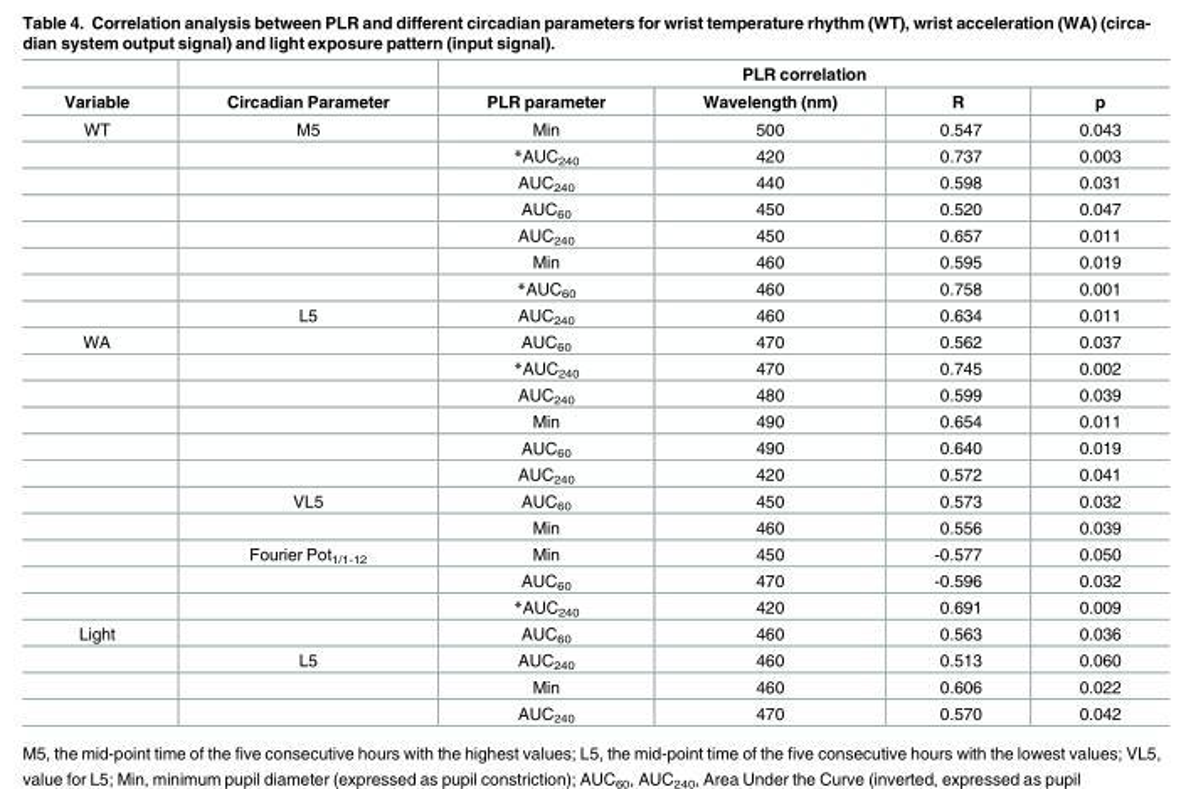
<table><thead><tr><td rowspan="2">Variable</td><td rowspan="2">Circadian Parameter</td><td colspan="4">PLR correlation</td></tr><tr><td>PLR parameter</td><td>Wavelength (nm)</td><td>R</td><td>p</td></tr></thead><tbody><tr><td rowspan="8">WT</td><td>M5</td><td>Min</td><td>500</td><td>0.547</td><td>0.043</td></tr><tr><td></td><td>*AUC<sub>240</sub></td><td>420</td><td>0.737</td><td>0.003</td></tr><tr><td></td><td>AUC<sub>240</sub></td><td>440</td><td>0.598</td><td>0.031</td></tr><tr><td></td><td>AUC<sub>60</sub></td><td>450</td><td>0.520</td><td>0.047</td></tr><tr><td></td><td>AUC<sub>240</sub></td><td>450</td><td>0.657</td><td>0.011</td></tr><tr><td></td><td>Min</td><td>460</td><td>0.595</td><td>0.019</td></tr><tr><td></td><td>*AUC<sub>60</sub></td><td>460</td><td>0.758</td><td>0.001</td></tr><tr><td>L5</td><td>AUC<sub>240</sub></td><td>460</td><td>0.634</td><td>0.011</td></tr><tr><td rowspan="11">WA</td><td></td><td>AUC<sub>60</sub></td><td>470</td><td>0.562</td><td>0.037</td></tr><tr><td></td><td>*AUC<sub>240</sub></td><td>470</td><td>0.745</td><td>0.002</td></tr><tr><td></td><td>AUC<sub>240</sub></td><td>480</td><td>0.599</td><td>0.039</td></tr><tr><td></td><td>Min</td><td>490</td><td>0.654</td><td>0.011</td></tr><tr><td></td><td>AUC<sub>60</sub></td><td>490</td><td>0.640</td><td>0.019</td></tr><tr><td></td><td>AUC<sub>240</sub></td><td>420</td><td>0.572</td><td>0.041</td></tr><tr><td>VL5</td><td>AUC<sub>60</sub></td><td>450</td><td>0.573</td><td>0.032</td></tr><tr><td></td><td>Min</td><td>460</td><td>0.556</td><td>0.039</td></tr><tr><td>Fourier Pot<sub>1/1-12</sub></td><td>Min</td><td>450</td><td>-0.577</td><td>0.050</td></tr><tr><td></td><td>AUC<sub>60</sub></td><td>470</td><td>-0.596</td><td>0.032</td></tr><tr><td></td><td>*AUC<sub>240</sub></td><td>420</td><td>0.691</td><td>0.009</td></tr><tr><td rowspan="4">Light</td><td></td><td>AUC<sub>60</sub></td><td>460</td><td>0.563</td><td>0.036</td></tr><tr><td>L5</td><td>AUC<sub>240</sub></td><td>460</td><td>0.513</td><td>0.060</td></tr><tr><td></td><td>Min</td><td>460</td><td>0.606</td><td>0.022</td></tr><tr><td></td><td>AUC<sub>240</sub></td><td>470</td><td>0.570</td><td>0.042</td></tr></tbody></table>